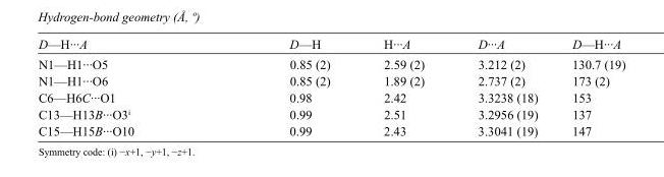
<table><tbody><tr><td>D—H···A</td><td>D—H</td><td>H···A</td><td>D···A</td><td>D—H···A</td></tr><tr><td>N1—H1···O5</td><td>0.85 (2)</td><td>2.59 (2)</td><td>3.212 (2)</td><td>130.7 (19)</td></tr><tr><td>N1—H1···O6</td><td>0.85 (2)</td><td>1.89 (2)</td><td>2.737 (2)</td><td>173 (2)</td></tr><tr><td>C6—H6C···O1</td><td>0.98</td><td>2.42</td><td>3.3238 (18)</td><td>153</td></tr><tr><td>C13—H13B···O3<sup>i</sup></td><td>0.99</td><td>2.51</td><td>3.2956 (19)</td><td>137</td></tr><tr><td>C15—H15B···O10</td><td>0.99</td><td>2.43</td><td>3.3041 (19)</td><td>147</td></tr></tbody></table>